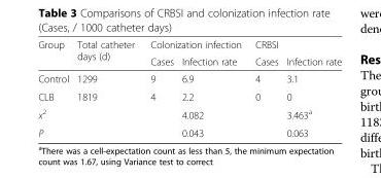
<table><thead><tr><td rowspan="2">Group</td><td rowspan="2">Total catheter days (d)</td><td colspan="2">Colonization infection</td><td colspan="2">CRBSI</td></tr><tr><td>Cases</td><td>Infection rate</td><td>Cases</td><td>Infection rate</td></tr></thead><tbody><tr><td>Control</td><td>1299</td><td>9</td><td>6.9</td><td>4</td><td>3.1</td></tr><tr><td>CLB</td><td>1819</td><td>4</td><td>2.2</td><td>0</td><td>0</td></tr><tr><td>x<sup>2</sup></td><td></td><td></td><td>4.082</td><td></td><td>3.463<sup>a</sup></td></tr><tr><td>P</td><td></td><td></td><td>0.043</td><td></td><td>0.063</td></tr></tbody></table>